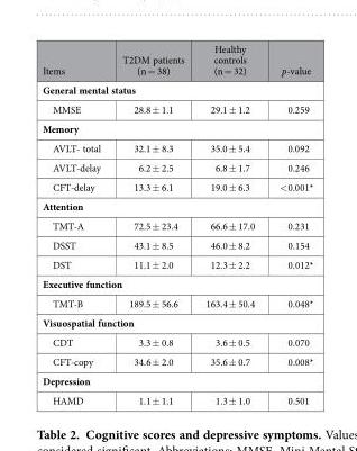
<table><thead><tr><td>Items</td><td>T2DM patients (n = 38)</td><td>Healthy controls (n = 32)</td><td>p-value</td></tr></thead><tbody><tr><td colspan="4">General mental status</td></tr><tr><td>MMSE</td><td>28.8 ± 1.1</td><td>29.1 ± 1.2</td><td>0.259</td></tr><tr><td colspan="4">Memory</td></tr><tr><td>AVLT- total</td><td>32.1 ± 8.3</td><td>35.0 ± 5.4</td><td>0.092</td></tr><tr><td>AVLT-delay</td><td>6.2 ± 2.5</td><td>6.8 ± 1.7</td><td>0.246</td></tr><tr><td>CFT-delay</td><td>13.3 ± 6.1</td><td>19.0 ± 6.3</td><td>&lt; 0.001*</td></tr><tr><td colspan="4">Attention</td></tr><tr><td>TMT-A</td><td>72.5 ± 23.4</td><td>66.6 ± 17.0</td><td>0.231</td></tr><tr><td>DSST</td><td>43.1 ± 8.5</td><td>46.0 ± 8.2</td><td>0.154</td></tr><tr><td>DST</td><td>11.1 ± 2.0</td><td>12.3 ± 2.2</td><td>0.012*</td></tr><tr><td colspan="4">Executive function</td></tr><tr><td>TMT-B</td><td>189.5 ± 56.6</td><td>163.4 ± 50.4</td><td>0.048*</td></tr><tr><td colspan="4">Visuospatial function</td></tr><tr><td>CDT</td><td>3.3 ± 0.8</td><td>3.6 ± 0.5</td><td>0.070</td></tr><tr><td>CFT-copy</td><td>34.6 ± 2.0</td><td>35.6 ± 0.7</td><td>0.008*</td></tr><tr><td colspan="4">Depression</td></tr><tr><td>HAMD</td><td>1.1 ± 1.1</td><td>1.3 ± 1.0</td><td>0.501</td></tr></tbody></table>